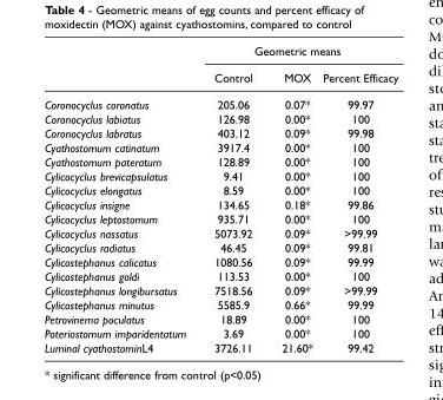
<table><thead><tr><td rowspan="2"></td><td colspan="3">Geometric means</td></tr><tr><td>Control</td><td>MOX</td><td>Percent Efficacy</td></tr></thead><tbody><tr><td>Coronocyclus coronatus</td><td>205.06</td><td>0.07*</td><td>99.97</td></tr><tr><td>Coronocyclus labiatus</td><td>126.98</td><td>0.00*</td><td>100</td></tr><tr><td>Coronocyclus labratus</td><td>403.12</td><td>0.09*</td><td>99.98</td></tr><tr><td>Cyathostomum catinatum</td><td>3917.4</td><td>0.00*</td><td>100</td></tr><tr><td>Cyathostomum pateratum</td><td>128.89</td><td>0.00*</td><td>100</td></tr><tr><td>Cylicocyclus brevicapsulatus</td><td>9.41</td><td>0.00*</td><td>100</td></tr><tr><td>Cylicocyclus elongatus</td><td>8.59</td><td>0.00*</td><td>100</td></tr><tr><td>Cylicocyclus insigne</td><td>134.65</td><td>0.18*</td><td>99.86</td></tr><tr><td>Cylicocyclus leptostomum</td><td>935.71</td><td>0.00*</td><td>100</td></tr><tr><td>Cylicocyclus nassatus</td><td>5073.92</td><td>0.09*</td><td>&gt;99.99</td></tr><tr><td>Cylicocyclus radiatus</td><td>46.45</td><td>0.09*</td><td>99.81</td></tr><tr><td>Cylicostephanus calicatus</td><td>1080.56</td><td>0.09*</td><td>99.99</td></tr><tr><td>Cylicostephanus goldi</td><td>113.53</td><td>0.00*</td><td>100</td></tr><tr><td>Cylicostephanus longibursatus</td><td>7518.56</td><td>0.09*</td><td>&gt;99.99</td></tr><tr><td>Cylicostephanus minutus</td><td>5585.9</td><td>0.66*</td><td>99.99</td></tr><tr><td>Petrovinema poculatus</td><td>18.89</td><td>0.00*</td><td>100</td></tr><tr><td>Poteriostomum imparidentatum</td><td>3.69</td><td>0.00*</td><td>100</td></tr><tr><td>Luminal cyathostominL4</td><td>3726.11</td><td>21.60*</td><td>99.42</td></tr></tbody></table>